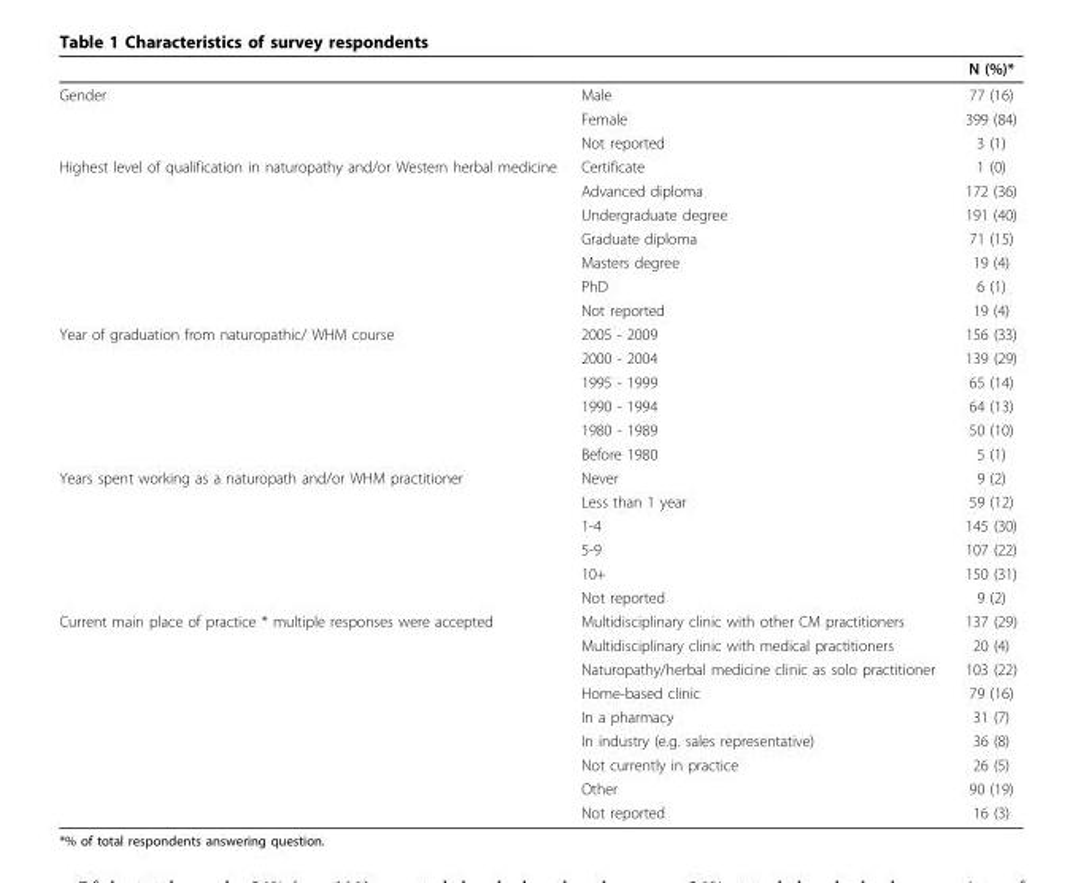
<table><thead><tr><td></td><td></td><td>N (%)*</td></tr></thead><tbody><tr><td rowspan="3">Gender</td><td>Male</td><td>77 (16)</td></tr><tr><td>Female</td><td>399 (84)</td></tr><tr><td>Not reported</td><td>3 (1)</td></tr><tr><td rowspan="7">Highest level of qualification in naturopathy and/or Western herbal medicine</td><td>Certificate</td><td>1 (0)</td></tr><tr><td>Advanced diploma</td><td>172 (36)</td></tr><tr><td>Undergraduate degree</td><td>191 (40)</td></tr><tr><td>Graduate diploma</td><td>71 (15)</td></tr><tr><td>Masters degree</td><td>19 (4)</td></tr><tr><td>PhD</td><td>6 (1)</td></tr><tr><td>Not reported</td><td>19 (4)</td></tr><tr><td rowspan="6">Year of graduation from naturopathic/ WHM course</td><td>2005 - 2009</td><td>156 (33)</td></tr><tr><td>2000 - 2004</td><td>139 (29)</td></tr><tr><td>1995 - 1999</td><td>65 (14)</td></tr><tr><td>1990 - 1994</td><td>64 (13)</td></tr><tr><td>1980 - 1989</td><td>50 (10)</td></tr><tr><td>Before 1980</td><td>5 (1)</td></tr><tr><td rowspan="6">Years spent working as a naturopath and/or WHM practitioner</td><td>Never</td><td>9 (2)</td></tr><tr><td>Less than 1 year</td><td>59 (12)</td></tr><tr><td>1-4</td><td>145 (30)</td></tr><tr><td>5-9</td><td>107 (22)</td></tr><tr><td>10+</td><td>150 (31)</td></tr><tr><td>Not reported</td><td>9 (2)</td></tr><tr><td rowspan="9">Current main place of practice * multiple responses were accepted</td><td>Multidisciplinary clinic with other CM practitioners</td><td>137 (29)</td></tr><tr><td>Multidisciplinary clinic with medical practitioners</td><td>20 (4)</td></tr><tr><td>Naturopathy/herbal medicine clinic as solo practitioner</td><td>103 (22)</td></tr><tr><td>Home-based clinic</td><td>79 (16)</td></tr><tr><td>In a pharmacy</td><td>31 (7)</td></tr><tr><td>In industry (e.g. sales representative)</td><td>36 (8)</td></tr><tr><td>Not currently in practice</td><td>26 (5)</td></tr><tr><td>Other</td><td>90 (19)</td></tr><tr><td>Not reported</td><td>16 (3)</td></tr></tbody></table>